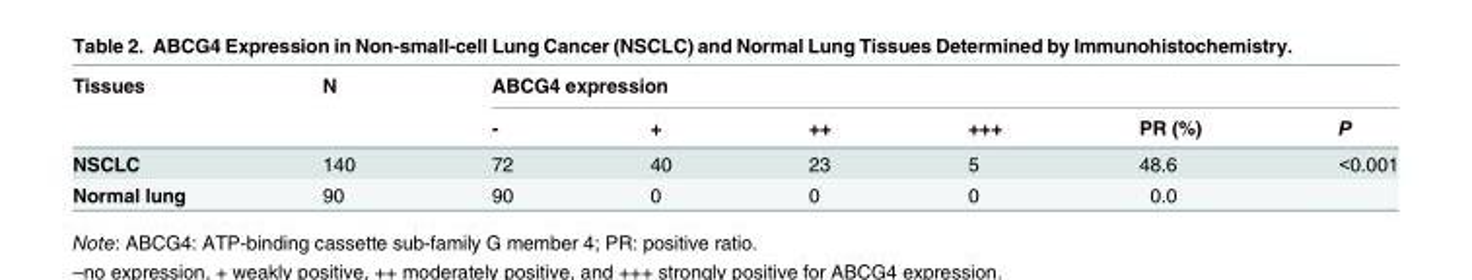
<table><thead><tr><td rowspan="2">Tissues</td><td rowspan="2">N</td><td colspan="6">ABCG4 expression</td></tr><tr><td>-</td><td>+</td><td>++</td><td>+++</td><td>PR (%)</td><td>P</td></tr></thead><tbody><tr><td>NSCLC</td><td>140</td><td>72</td><td>40</td><td>23</td><td>5</td><td>48.6</td><td>&lt;0.001</td></tr><tr><td>Normal lung</td><td>90</td><td>90</td><td>0</td><td>0</td><td>0</td><td>0.0</td><td></td></tr></tbody></table>